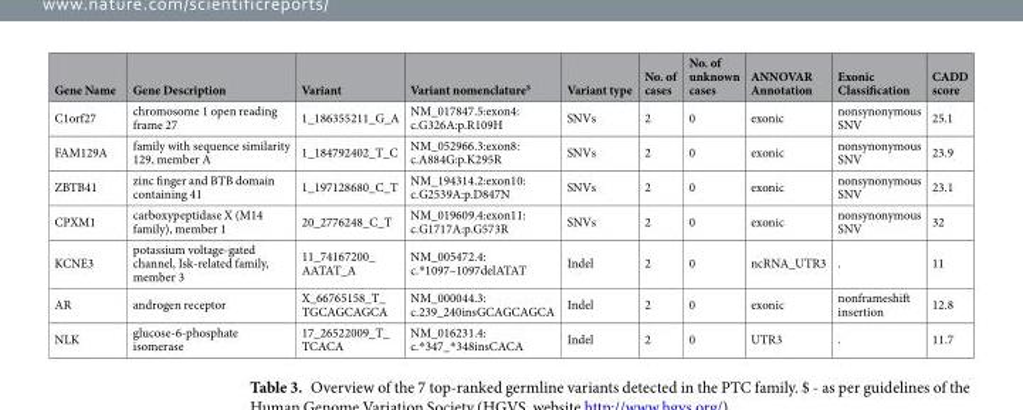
<table><thead><tr><td>Gene Name</td><td>Gene Description</td><td>Variant</td><td>Variant nomenclature<sup>$</sup></td><td>Variant type</td><td>No. of cases</td><td>No. of unknown cases</td><td>ANNOVAR Annotation</td><td>Exonic Classification</td><td>CADD score</td></tr></thead><tbody><tr><td>C1orf27</td><td>chromosome 1 open reading frame 27</td><td>1_186355211_G_A</td><td>NM_017847.5:exon4: c.G326A:p.R109H</td><td>SNVs</td><td>2</td><td>0</td><td>exonic</td><td>nonsynonymous SNV</td><td>25.1</td></tr><tr><td>FAM129A</td><td>family with sequence similarity 129, member A</td><td>1_184792402_T_C</td><td>NM_052966.3:exon8: c.A884G:p.K295R</td><td>SNVs</td><td>2</td><td>0</td><td>exonic</td><td>nonsynonymous SNV</td><td>23.9</td></tr><tr><td>ZBTB41</td><td>zinc finger and BTB domain containing 41</td><td>1_197128680_C_T</td><td>NM_194314.2:exon10: c.G2539A:p.D847N</td><td>SNVs</td><td>2</td><td>0</td><td>exonic</td><td>nonsynonymous SNV</td><td>23.1</td></tr><tr><td>CPXM1</td><td>carboxypeptidase X (M14 family), member 1</td><td>20_2776248_C_T</td><td>NM_019609.4:exon11: c.G1717A:p.G573R</td><td>SNVs</td><td>2</td><td>0</td><td>exonic</td><td>nonsynonymous SNV</td><td>32</td></tr><tr><td>KCNE3</td><td>potassium voltage-gated channel, Isk-related family, member 3</td><td>11_74167200_ AATAT_A</td><td>NM_005472.4: c.*1097–1097delATAT</td><td>Indel</td><td>2</td><td>0</td><td>ncRNA_UTR3</td><td>.</td><td>11</td></tr><tr><td>AR</td><td>androgen receptor</td><td>X_66765158_T_ TGCAGCAGCA</td><td>NM_000044.3: c.239_240insGCAGCAGCA</td><td>Indel</td><td>2</td><td>0</td><td>exonic</td><td>nonframeshift insertion</td><td>12.8</td></tr><tr><td>NLK</td><td>glucose-6-phosphate isomerase</td><td>17_26522009_T_ TCACA</td><td>NM_016231.4: c.*347_*348insCACA</td><td>Indel</td><td>2</td><td>0</td><td>UTR3</td><td>.</td><td>11.7</td></tr></tbody></table>